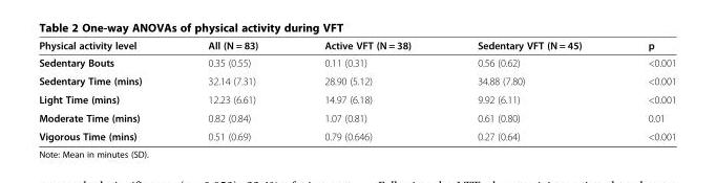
<table><thead><tr><td>Physical activity level</td><td>All (N = 83)</td><td>Active VFT (N = 38)</td><td>Sedentary VFT (N = 45)</td><td>p</td></tr></thead><tbody><tr><td>Sedentary Bouts</td><td>0.35 (0.55)</td><td>0.11 (0.31)</td><td>0.56 (0.62)</td><td>&lt;0.001</td></tr><tr><td>Sedentary Time (mins)</td><td>32.14 (7.31)</td><td>28.90 (5.12)</td><td>34.88 (7.80)</td><td>&lt;0.001</td></tr><tr><td>Light Time (mins)</td><td>12.23 (6.61)</td><td>14.97 (6.18)</td><td>9.92 (6.11)</td><td>&lt;0.001</td></tr><tr><td>Moderate Time (mins)</td><td>0.82 (0.84)</td><td>1.07 (0.81)</td><td>0.61 (0.80)</td><td>0.01</td></tr><tr><td>Vigorous Time (mins)</td><td>0.51 (0.69)</td><td>0.79 (0.646)</td><td>0.27 (0.64)</td><td>&lt;0.001</td></tr></tbody></table>